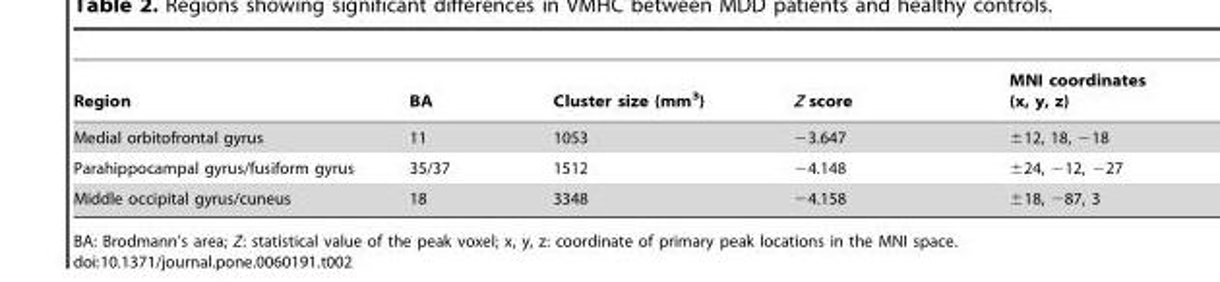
<table><thead><tr><td>Region</td><td>BA</td><td>Cluster size (mm<sup>3</sup>)</td><td>Z score</td><td>MNI coordinates (x, y, z)</td></tr></thead><tbody><tr><td>Medial orbitofrontal gyrus</td><td>11</td><td>1053</td><td>−3.647</td><td>±12, 18, −18</td></tr><tr><td>Parahippocampal gyrus/fusiform gyrus</td><td>35/37</td><td>1512</td><td>−4.148</td><td>±24, −12, −27</td></tr><tr><td>Middle occipital gyrus/cuneus</td><td>18</td><td>3348</td><td>−4.158</td><td>±18, −87, 3</td></tr></tbody></table>